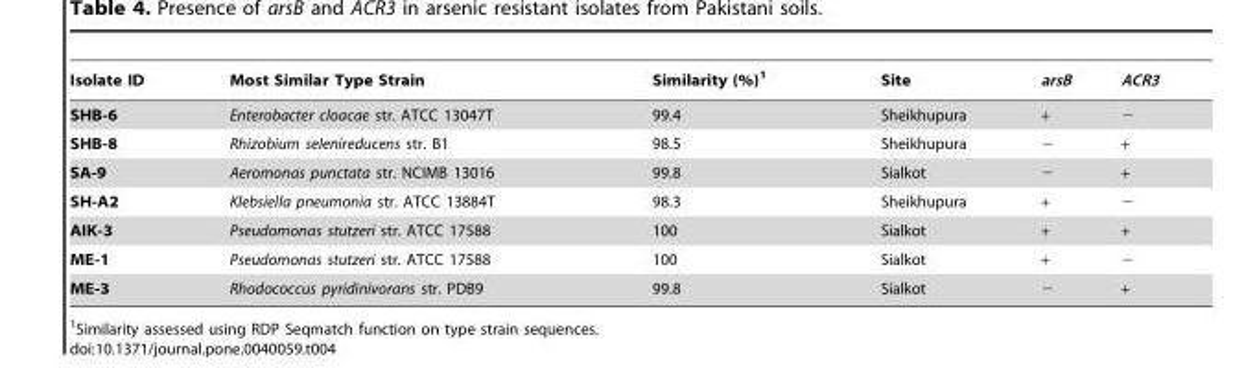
<table><thead><tr><td>Isolate ID</td><td>Most Similar Type Strain</td><td>Similarity (%)<sup>1</sup></td><td>Site</td><td>arsB</td><td>ACR3</td></tr></thead><tbody><tr><td>SHB-6</td><td>Enterobacter cloacae str. ATCC 13047T</td><td>99.4</td><td>Sheikhupura</td><td>+</td><td>−</td></tr><tr><td>SHB-8</td><td>Rhizobium selenireducens str. B1</td><td>98.5</td><td>Sheikhupura</td><td>−</td><td>+</td></tr><tr><td>SA-9</td><td>Aeromonas punctata str. NCIMB 13016</td><td>99.8</td><td>Sialkot</td><td>−</td><td>+</td></tr><tr><td>SH-A2</td><td>Klebsiella pneumonia str. ATCC 13884T</td><td>98.3</td><td>Sheikhupura</td><td>+</td><td>−</td></tr><tr><td>AIK-3</td><td>Pseudomonas stutzeri str. ATCC 17588</td><td>100</td><td>Sialkot</td><td>+</td><td>+</td></tr><tr><td>ME-1</td><td>Pseudomonas stutzeri str. ATCC 17588</td><td>100</td><td>Sialkot</td><td>+</td><td>−</td></tr><tr><td>ME-3</td><td>Rhodococcus pyridinivorans str. PDB9</td><td>99.8</td><td>Sialkot</td><td>−</td><td>+</td></tr></tbody></table>